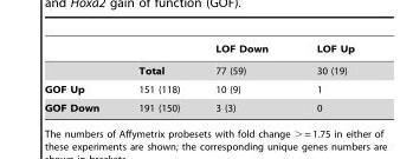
<table><thead><tr><td></td><td></td><td>LOF Down</td><td>LOF Up</td></tr></thead><tbody><tr><td></td><td>Total</td><td>77 (59)</td><td>30 (19)</td></tr><tr><td>GOF Up</td><td>151 (118)</td><td>10 (9)</td><td>1</td></tr><tr><td>GOF Down</td><td>191 (150)</td><td>3 (3)</td><td>0</td></tr></tbody></table>